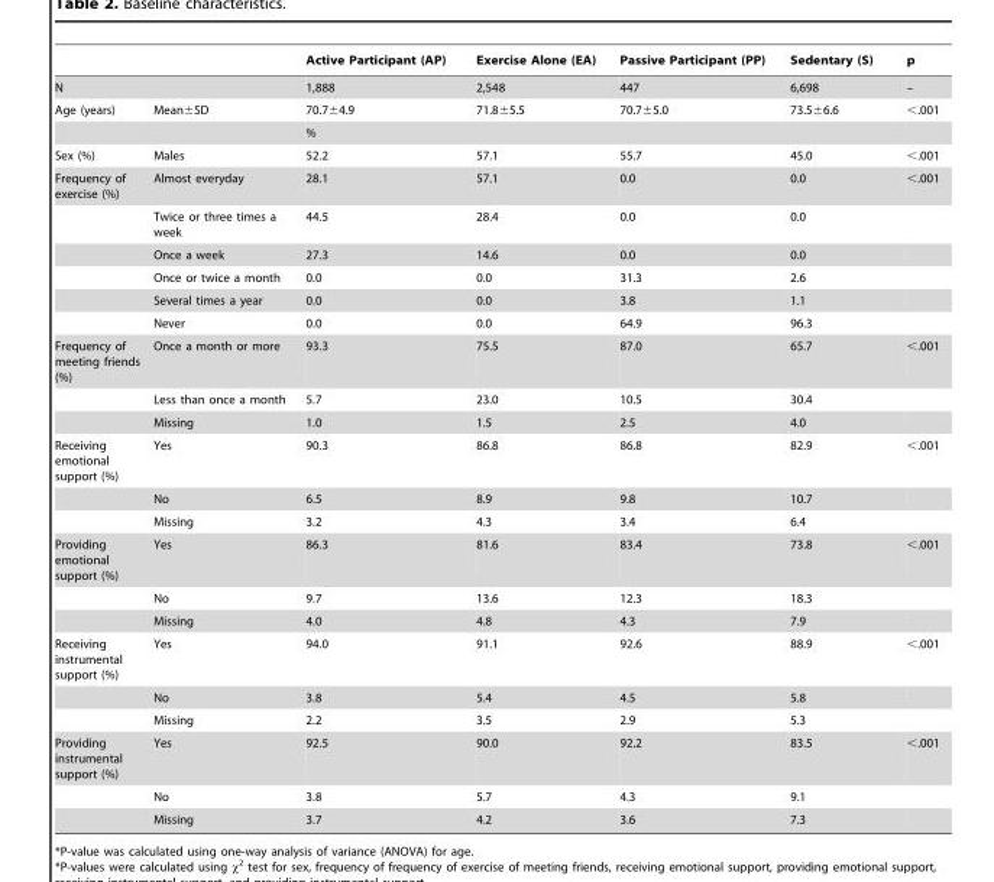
<table><thead><tr><td></td><td></td><td>Active Participant (AP)</td><td>Exercise Alone (EA)</td><td>Passive Participant (PP)</td><td>Sedentary (S)</td><td>p</td></tr></thead><tbody><tr><td>N</td><td></td><td>1,888</td><td>2,548</td><td>447</td><td>6,698</td><td>–</td></tr><tr><td rowspan="2">Age (years)</td><td>Mean±SD</td><td>70.7±4.9</td><td>71.8±5.5</td><td>70.7±5.0</td><td>73.5±6.6</td><td>&lt;.001</td></tr><tr><td></td><td colspan="4">%</td><td></td></tr><tr><td>Sex (%)</td><td>Males</td><td>52.2</td><td>57.1</td><td>55.7</td><td>45.0</td><td>&lt;.001</td></tr><tr><td rowspan="6">Frequency of exercise (%)</td><td>Almost everyday</td><td>28.1</td><td>57.1</td><td>0.0</td><td>0.0</td><td>&lt;.001</td></tr><tr><td>Twice or three times a week</td><td>44.5</td><td>28.4</td><td>0.0</td><td>0.0</td><td></td></tr><tr><td>Once a week</td><td>27.3</td><td>14.6</td><td>0.0</td><td>0.0</td><td></td></tr><tr><td>Once or twice a month</td><td>0.0</td><td>0.0</td><td>31.3</td><td>2.6</td><td></td></tr><tr><td>Several times a year</td><td>0.0</td><td>0.0</td><td>3.8</td><td>1.1</td><td></td></tr><tr><td>Never</td><td>0.0</td><td>0.0</td><td>64.9</td><td>96.3</td><td></td></tr><tr><td rowspan="3">Frequency of meeting friends (%)</td><td>Once a month or more</td><td>93.3</td><td>75.5</td><td>87.0</td><td>65.7</td><td>&lt;.001</td></tr><tr><td>Less than once a month</td><td>5.7</td><td>23.0</td><td>10.5</td><td>30.4</td><td></td></tr><tr><td>Missing</td><td>1.0</td><td>1.5</td><td>2.5</td><td>4.0</td><td></td></tr><tr><td rowspan="3">Receiving emotional support (%)</td><td>Yes</td><td>90.3</td><td>86.8</td><td>86.8</td><td>82.9</td><td>&lt;.001</td></tr><tr><td>No</td><td>6.5</td><td>8.9</td><td>9.8</td><td>10.7</td><td></td></tr><tr><td>Missing</td><td>3.2</td><td>4.3</td><td>3.4</td><td>6.4</td><td></td></tr><tr><td rowspan="3">Providing emotional support (%)</td><td>Yes</td><td>86.3</td><td>81.6</td><td>83.4</td><td>73.8</td><td>&lt;.001</td></tr><tr><td>No</td><td>9.7</td><td>13.6</td><td>12.3</td><td>18.3</td><td></td></tr><tr><td>Missing</td><td>4.0</td><td>4.8</td><td>4.3</td><td>7.9</td><td></td></tr><tr><td rowspan="3">Receiving instrumental support (%)</td><td>Yes</td><td>94.0</td><td>91.1</td><td>92.6</td><td>88.9</td><td>&lt;.001</td></tr><tr><td>No</td><td>3.8</td><td>5.4</td><td>4.5</td><td>5.8</td><td></td></tr><tr><td>Missing</td><td>2.2</td><td>3.5</td><td>2.9</td><td>5.3</td><td></td></tr><tr><td rowspan="3">Providing instrumental support (%)</td><td>Yes</td><td>92.5</td><td>90.0</td><td>92.2</td><td>83.5</td><td>&lt;.001</td></tr><tr><td>No</td><td>3.8</td><td>5.7</td><td>4.3</td><td>9.1</td><td></td></tr><tr><td>Missing</td><td>3.7</td><td>4.2</td><td>3.6</td><td>7.3</td><td></td></tr></tbody></table>